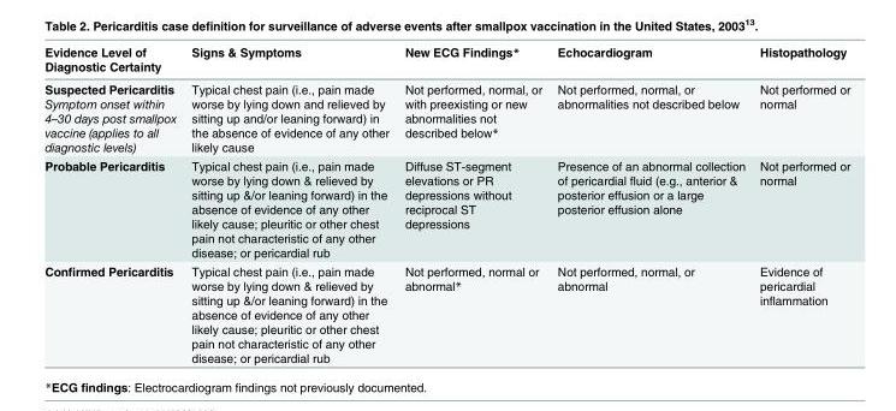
<table><thead><tr><td>Evidence Level of Diagnostic Certainty</td><td>Signs &amp; Symptoms</td><td>New ECG Findings*</td><td>Echocardiogram</td><td>Histopathology</td></tr></thead><tbody><tr><td>Suspected Pericarditis Symptom onset within 4–30 days post smallpox vaccine (applies to all diagnostic levels)</td><td>Typical chest pain (i.e., pain made worse by lying down and relieved by sitting up and/or leaning forward) in the absence of evidence of any other likely cause</td><td>Not performed, normal, or with preexisting or new abnormalities not described below*</td><td>Not performed, normal, or abnormalities not described below</td><td>Not performed or normal</td></tr><tr><td>Probable Pericarditis</td><td>Typical chest pain (i.e., pain made worse by lying down &amp; relieved by sitting up &amp;/or leaning forward) in the absence of evidence of any other likely cause; pleuritic or other chest pain not characteristic of any other disease; or pericardial rub</td><td>Diffuse ST-segment elevations or PR depressions without reciprocal ST depressions</td><td>Presence of an abnormal collection of pericardial fluid (e.g., anterior &amp; posterior effusion or a large posterior effusion alone</td><td>Not performed or normal</td></tr><tr><td>Confirmed Pericarditis</td><td>Typical chest pain (i.e., pain made worse by lying down &amp; relieved by sitting up &amp;/or leaning forward) in the absence of evidence of any other likely cause; pleuritic or other chest pain not characteristic of any other disease; or pericardial rub</td><td>Not performed, normal or abnormal*</td><td>Not performed, normal, or abnormal</td><td>Evidence of pericardial inflammation</td></tr></tbody></table>